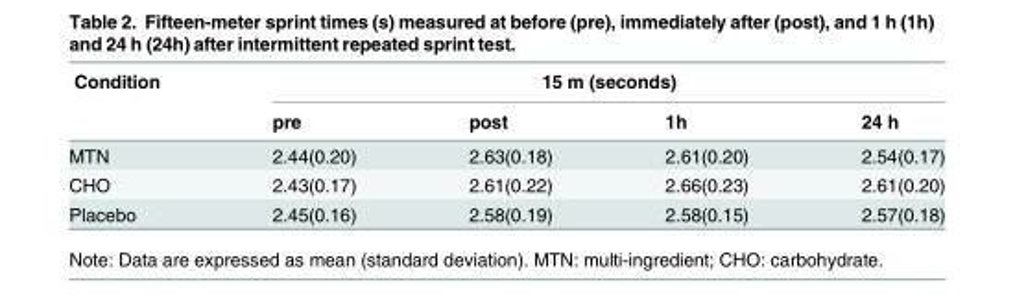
<table><thead><tr><td rowspan="2">Condition</td><td colspan="4">15 m (seconds)</td></tr><tr><td>pre</td><td>post</td><td>1h</td><td>24 h</td></tr></thead><tbody><tr><td>MTN</td><td>2.44(0.20)</td><td>2.63(0.18)</td><td>2.61(0.20)</td><td>2.54(0.17)</td></tr><tr><td>CHO</td><td>2.43(0.17)</td><td>2.61(0.22)</td><td>2.66(0.23)</td><td>2.61(0.20)</td></tr><tr><td>Placebo</td><td>2.45(0.16)</td><td>2.58(0.19)</td><td>2.58(0.15)</td><td>2.57(0.18)</td></tr></tbody></table>